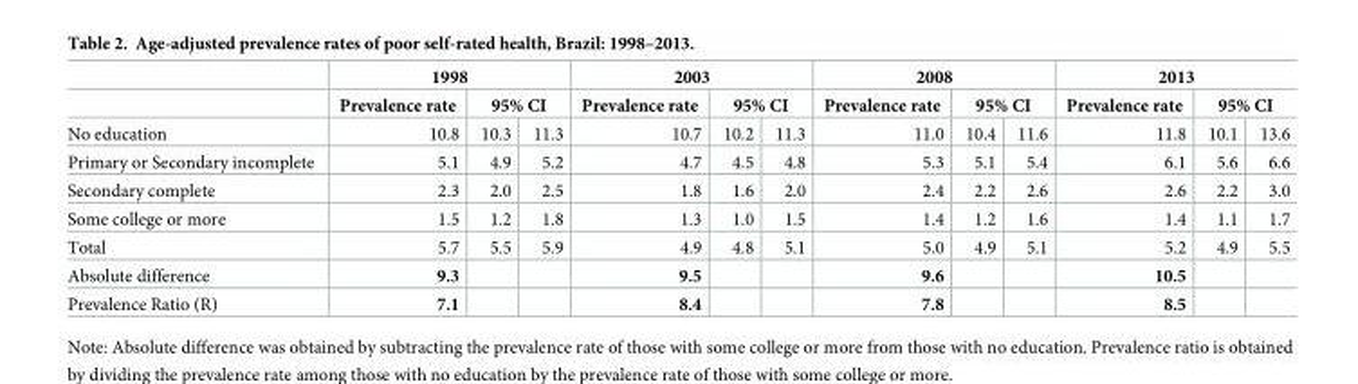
<table><thead><tr><td rowspan="3">No education</td><td colspan="3">1998</td><td colspan="3">2003</td><td colspan="3">2008</td><td colspan="3">2013</td></tr><tr><td rowspan="2">Prevalence rate 10.8</td><td colspan="2">95% CI</td><td rowspan="2">Prevalence rate 10.7</td><td colspan="2">95% CI</td><td rowspan="2">Prevalence rate 11.0</td><td colspan="2">95% CI</td><td rowspan="2">Prevalence rate 11.8</td><td colspan="2">95% CI</td></tr><tr><td>10.3</td><td>11.3</td><td>10.2</td><td>11.3</td><td>10.4</td><td>11.6</td><td>10.1</td><td>13.6</td></tr></thead><tbody><tr><td>Primary or Secondary incomplete</td><td>5.1</td><td>4.9</td><td>5.2</td><td>4.7</td><td>4.5</td><td>4.8</td><td>5.3</td><td>5.1</td><td>5.4</td><td>6.1</td><td>5.6</td><td>6.6</td></tr><tr><td>Secondary complete</td><td>2.3</td><td>2.0</td><td>2.5</td><td>1.8</td><td>1.6</td><td>2.0</td><td>2.4</td><td>2.2</td><td>2.6</td><td>2.6</td><td>2.2</td><td>3.0</td></tr><tr><td>Some college or more</td><td>1.5</td><td>1.2</td><td>1.8</td><td>1.3</td><td>1.0</td><td>1.5</td><td>1.4</td><td>1.2</td><td>1.6</td><td>1.4</td><td>1.1</td><td>1.7</td></tr><tr><td>Total</td><td>5.7</td><td>5.5</td><td>5.9</td><td>4.9</td><td>4.8</td><td>5.1</td><td>5.0</td><td>4.9</td><td>5.1</td><td>5.2</td><td>4.9</td><td>5.5</td></tr><tr><td>Absolute difference</td><td>9.3</td><td></td><td></td><td>9.5</td><td></td><td></td><td>9.6</td><td></td><td></td><td>10.5</td><td></td><td></td></tr><tr><td>Prevalence Ratio (R)</td><td>7.1</td><td></td><td></td><td>8.4</td><td></td><td></td><td>7.8</td><td></td><td></td><td>8.5</td><td></td><td></td></tr></tbody></table>